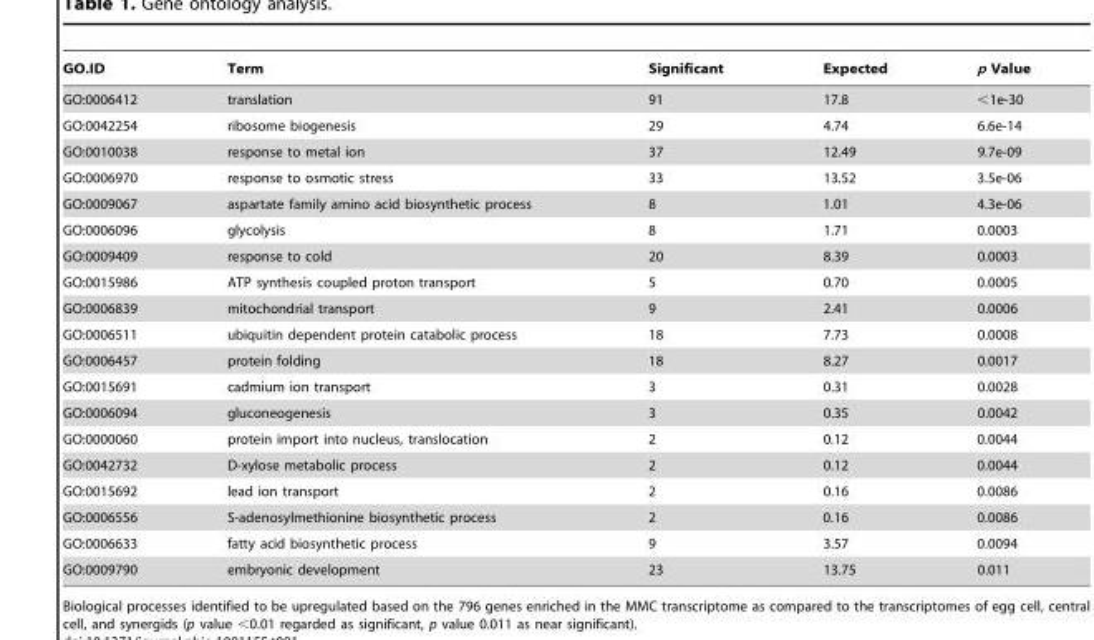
<table><thead><tr><td>GO.ID</td><td>Term</td><td>Significant</td><td>Expected</td><td>p Value</td></tr></thead><tbody><tr><td>GO:0006412</td><td>translation</td><td>91</td><td>17.8</td><td>&lt;1e-30</td></tr><tr><td>GO:0042254</td><td>ribosome biogenesis</td><td>29</td><td>4.74</td><td>6.6e-14</td></tr><tr><td>GO:0010038</td><td>response to metal ion</td><td>37</td><td>12.49</td><td>9.7e-09</td></tr><tr><td>GO:0006970</td><td>response to osmotic stress</td><td>33</td><td>13.52</td><td>3.5e-06</td></tr><tr><td>GO:0009067</td><td>aspartate family amino acid biosynthetic process</td><td>8</td><td>1.01</td><td>4.3e-06</td></tr><tr><td>GO:0006096</td><td>glycolysis</td><td>8</td><td>1.71</td><td>0.0003</td></tr><tr><td>GO:0009409</td><td>response to cold</td><td>20</td><td>8.39</td><td>0.0003</td></tr><tr><td>GO:0015986</td><td>ATP synthesis coupled proton transport</td><td>5</td><td>0.70</td><td>0.0005</td></tr><tr><td>GO:0006839</td><td>mitochondrial transport</td><td>9</td><td>2.41</td><td>0.0006</td></tr><tr><td>GO:0006511</td><td>ubiquitin dependent protein catabolic process</td><td>18</td><td>7.73</td><td>0.0008</td></tr><tr><td>GO:0006457</td><td>protein folding</td><td>18</td><td>8.27</td><td>0.0017</td></tr><tr><td>GO:0015691</td><td>cadmium ion transport</td><td>3</td><td>0.31</td><td>0.0028</td></tr><tr><td>GO:0006094</td><td>gluconeogenesis</td><td>3</td><td>0.35</td><td>0.0042</td></tr><tr><td>GO:0000060</td><td>protein import into nucleus, translocation</td><td>2</td><td>0.12</td><td>0.0044</td></tr><tr><td>GO:0042732</td><td>D-xylose metabolic process</td><td>2</td><td>0.12</td><td>0.0044</td></tr><tr><td>GO:0015692</td><td>lead ion transport</td><td>2</td><td>0.16</td><td>0.0086</td></tr><tr><td>GO:0006556</td><td>S-adenosylmethionine biosynthetic process</td><td>2</td><td>0.16</td><td>0.0086</td></tr><tr><td>GO:0006633</td><td>fatty acid biosynthetic process</td><td>9</td><td>3.57</td><td>0.0094</td></tr><tr><td>GO:0009790</td><td>embryonic development</td><td>23</td><td>13.75</td><td>0.011</td></tr></tbody></table>